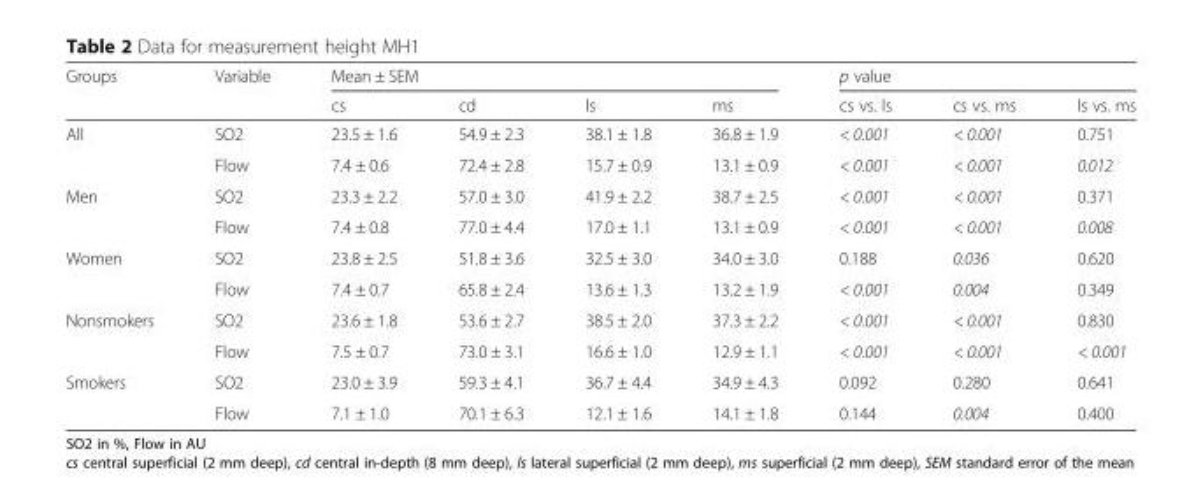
<table><thead><tr><td rowspan="2">Groups</td><td rowspan="2">Variable</td><td colspan="4">Mean ± SEM</td><td colspan="3">p value</td></tr><tr><td>cs</td><td>cd</td><td>ls</td><td>ms</td><td>cs vs. ls</td><td>cs vs. ms</td><td>ls vs. ms</td></tr></thead><tbody><tr><td rowspan="2">All</td><td>SO2</td><td>23.5 ± 1.6</td><td>54.9 ± 2.3</td><td>38.1 ± 1.8</td><td>36.8 ± 1.9</td><td>&lt; 0.001</td><td>&lt; 0.001</td><td>0.751</td></tr><tr><td>Flow</td><td>7.4 ± 0.6</td><td>72.4 ± 2.8</td><td>15.7 ± 0.9</td><td>13.1 ± 0.9</td><td>&lt; 0.001</td><td>&lt; 0.001</td><td>0.012</td></tr><tr><td rowspan="2">Men</td><td>SO2</td><td>23.3 ± 2.2</td><td>57.0 ± 3.0</td><td>41.9 ± 2.2</td><td>38.7 ± 2.5</td><td>&lt; 0.001</td><td>&lt; 0.001</td><td>0.371</td></tr><tr><td>Flow</td><td>7.4 ± 0.8</td><td>77.0 ± 4.4</td><td>17.0 ± 1.1</td><td>13.1 ± 0.9</td><td>&lt; 0.001</td><td>&lt; 0.001</td><td>0.008</td></tr><tr><td rowspan="2">Women</td><td>SO2</td><td>23.8 ± 2.5</td><td>51.8 ± 3.6</td><td>32.5 ± 3.0</td><td>34.0 ± 3.0</td><td>0.188</td><td>0.036</td><td>0.620</td></tr><tr><td>Flow</td><td>7.4 ± 0.7</td><td>65.8 ± 2.4</td><td>13.6 ± 1.3</td><td>13.2 ± 1.9</td><td>&lt; 0.001</td><td>0.004</td><td>0.349</td></tr><tr><td rowspan="2">Nonsmokers</td><td>SO2</td><td>23.6 ± 1.8</td><td>53.6 ± 2.7</td><td>38.5 ± 2.0</td><td>37.3 ± 2.2</td><td>&lt; 0.001</td><td>&lt; 0.001</td><td>0.830</td></tr><tr><td>Flow</td><td>7.5 ± 0.7</td><td>73.0 ± 3.1</td><td>16.6 ± 1.0</td><td>12.9 ± 1.1</td><td>&lt; 0.001</td><td>&lt; 0.001</td><td>&lt; 0.001</td></tr><tr><td rowspan="2">Smokers</td><td>SO2</td><td>23.0 ± 3.9</td><td>59.3 ± 4.1</td><td>36.7 ± 4.4</td><td>34.9 ± 4.3</td><td>0.092</td><td>0.280</td><td>0.641</td></tr><tr><td>Flow</td><td>7.1 ± 1.0</td><td>70.1 ± 6.3</td><td>12.1 ± 1.6</td><td>14.1 ± 1.8</td><td>0.144</td><td>0.004</td><td>0.400</td></tr></tbody></table>